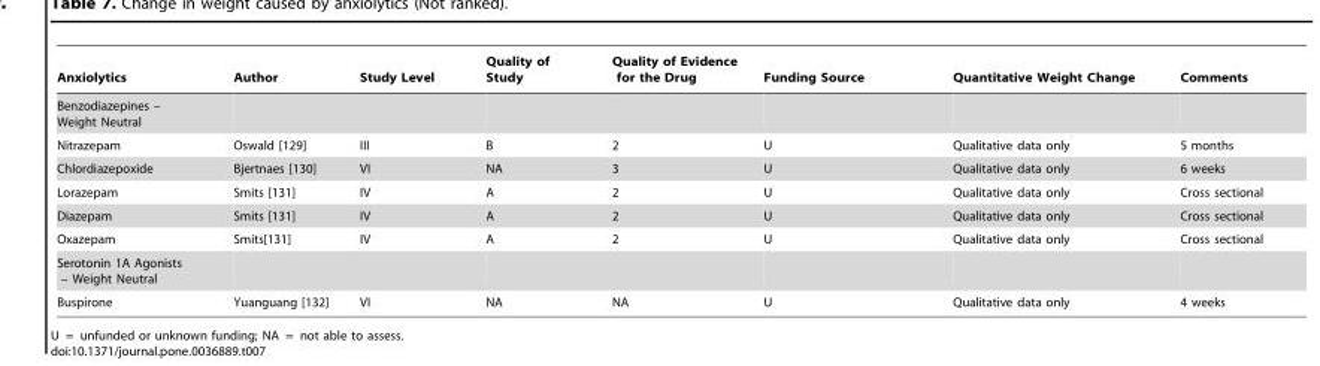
<table><thead><tr><td>Anxiolytics</td><td>Author</td><td>Study Level</td><td>Quality of Study</td><td>Quality of Evidence for the Drug</td><td>Funding Source</td><td>Quantitative Weight Change</td><td>Comments</td></tr></thead><tbody><tr><td colspan="8">Benzodiazepines – Weight Neutral</td></tr><tr><td>Nitrazepam</td><td>Oswald [129]</td><td>III</td><td>B</td><td>2</td><td>U</td><td>Qualitative data only</td><td>5 months</td></tr><tr><td>Chlordiazepoxide</td><td>Bjertnaes [130]</td><td>VI</td><td>NA</td><td>3</td><td>U</td><td>Qualitative data only</td><td>6 weeks</td></tr><tr><td>Lorazepam</td><td>Smits [131]</td><td>IV</td><td>A</td><td>2</td><td>U</td><td>Qualitative data only</td><td>Cross sectional</td></tr><tr><td>Diazepam</td><td>Smits [131]</td><td>IV</td><td>A</td><td>2</td><td>U</td><td>Qualitative data only</td><td>Cross sectional</td></tr><tr><td>Oxazepam</td><td>Smits[131]</td><td>IV</td><td>A</td><td>2</td><td>U</td><td>Qualitative data only</td><td>Cross sectional</td></tr><tr><td colspan="8">Serotonin 1A Agonists – Weight Neutral</td></tr><tr><td>Buspirone</td><td>Yuanguang [132]</td><td>VI</td><td>NA</td><td>NA</td><td>U</td><td>Qualitative data only</td><td>4 weeks</td></tr></tbody></table>